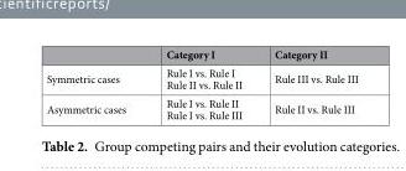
<table><thead><tr><td></td><td>Category I</td><td>Category II</td></tr></thead><tbody><tr><td>Symmetric cases</td><td>Rule I vs. Rule I Rule II vs. Rule II</td><td>Rule III vs. Rule III</td></tr><tr><td>Asymmetric cases</td><td>Rule I vs. Rule II Rule I vs. Rule III</td><td>Rule II vs. Rule III</td></tr></tbody></table>